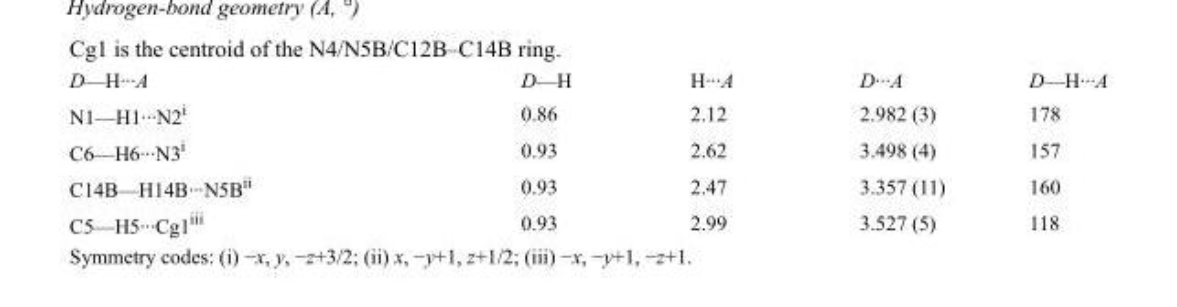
<table><tbody><tr><td>D—H···A</td><td>D—H</td><td>H···A</td><td>D···A</td><td>D—H···A</td></tr><tr><td>N1—H1···N2<sup>i</sup></td><td>0.86</td><td>2.12</td><td>2.982 (3)</td><td>178</td></tr><tr><td>C6—H6···N3<sup>i</sup></td><td>0.93</td><td>2.62</td><td>3.498 (4)</td><td>157</td></tr><tr><td>C14B—H14B···N5B<sup>ii</sup></td><td>0.93</td><td>2.47</td><td>3.357 (11)</td><td>160</td></tr><tr><td>C5—H5···Cg1<sup>iii</sup></td><td>0.93</td><td>2.99</td><td>3.527 (5)</td><td>118</td></tr></tbody></table>